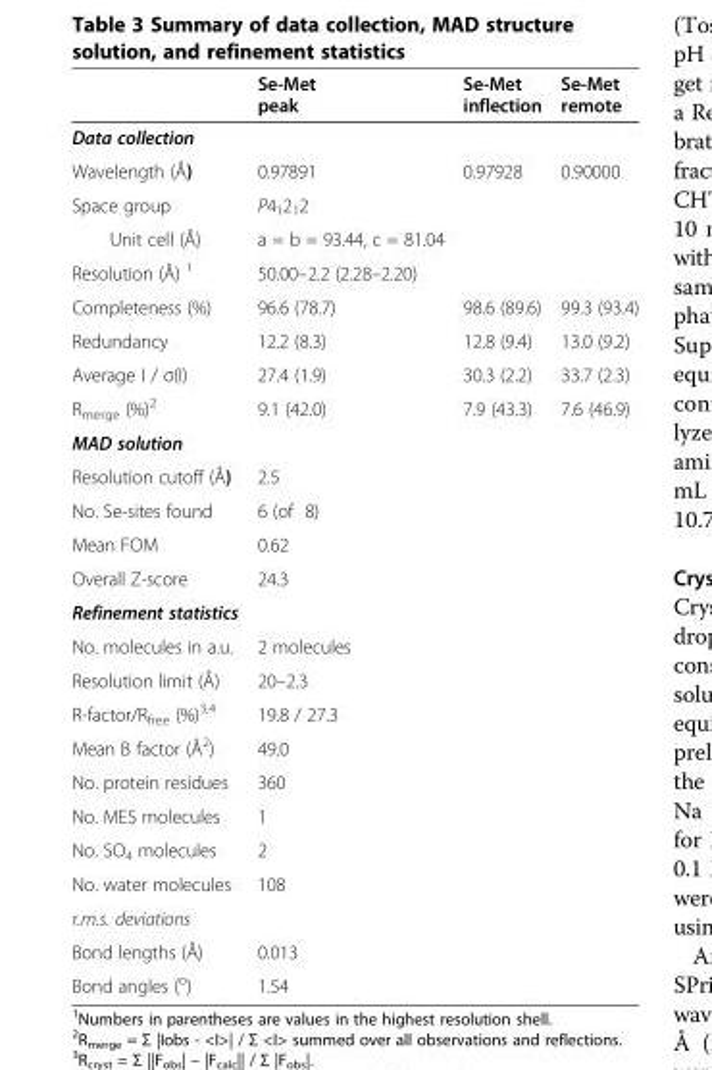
<table><thead><tr><td></td><td>Se-Met peak</td><td>Se-Met inflection</td><td>Se-Met remote</td></tr></thead><tbody><tr><td colspan="4">Data collection</td></tr><tr><td>Wavelength (Å)</td><td>0.97891</td><td>0.97928</td><td>0.90000</td></tr><tr><td>Space group</td><td>P4<sub>1</sub>2<sub>1</sub>2</td><td></td><td></td></tr><tr><td>Unit cell (Å)</td><td>a = b = 93.44, c = 81.04</td><td></td><td></td></tr><tr><td>Resolution (Å) <sup>1</sup></td><td>50.00–2.2 (2.28–2.20)</td><td></td><td></td></tr><tr><td>Completeness (%)</td><td>96.6 (78.7)</td><td>98.6 (89.6)</td><td>99.3 (93.4)</td></tr><tr><td>Redundancy</td><td>12.2 (8.3)</td><td>12.8 (9.4)</td><td>13.0 (9.2)</td></tr><tr><td>Average I / σ(I)</td><td>27.4 (1.9)</td><td>30.3 (2.2)</td><td>33.7 (2.3)</td></tr><tr><td>R<sub>merge</sub> (%)<sup>2</sup></td><td>9.1 (42.0)</td><td>7.9 (43.3)</td><td>7.6 (46.9)</td></tr><tr><td colspan="4">MAD solution</td></tr><tr><td>Resolution cutoff (Å)</td><td>2.5</td><td></td><td></td></tr><tr><td>No. Se-sites found</td><td>6 (of 8)</td><td></td><td></td></tr><tr><td>Mean FOM</td><td>0.62</td><td></td><td></td></tr><tr><td>Overall Z-score</td><td>24.3</td><td></td><td></td></tr><tr><td colspan="4">Refinement statistics</td></tr><tr><td>No. molecules in a.u.</td><td>2 molecules</td><td></td><td></td></tr><tr><td>Resolution limit (Å)</td><td>20–2.3</td><td></td><td></td></tr><tr><td>R-factor/R<sub>free</sub> (%)<sup>3,4</sup></td><td>19.8 / 27.3</td><td></td><td></td></tr><tr><td>Mean B factor (Å<sup>2</sup>)</td><td>49.0</td><td></td><td></td></tr><tr><td>No. protein residues</td><td>360</td><td></td><td></td></tr><tr><td>No. MES molecules</td><td>1</td><td></td><td></td></tr><tr><td>No. SO<sub>4</sub> molecules</td><td>2</td><td></td><td></td></tr><tr><td>No. water molecules</td><td>108</td><td></td><td></td></tr><tr><td colspan="4">r.m.s. deviations</td></tr><tr><td>Bond lengths (Å)</td><td>0.013</td><td></td><td></td></tr><tr><td>Bond angles (<sup>o</sup>)</td><td>1.54</td><td></td><td></td></tr></tbody></table>